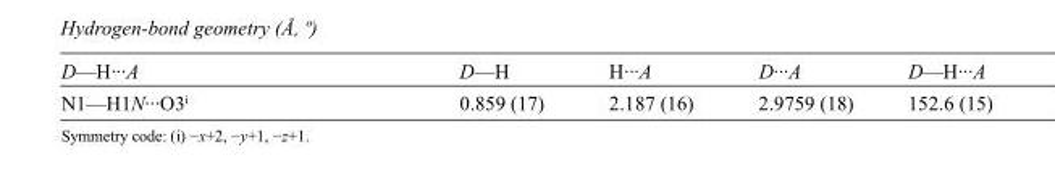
<table><tbody><tr><td>D—H···A</td><td>D—H</td><td>H···A</td><td>D···A</td><td>D—H···A</td></tr><tr><td>N1—H1N···O3<sup>i</sup></td><td>0.859 (17)</td><td>2.187 (16)</td><td>2.9759 (18)</td><td>152.6 (15)</td></tr></tbody></table>